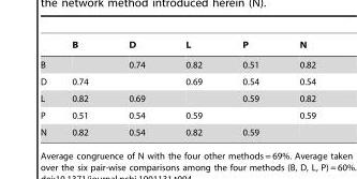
<table><thead><tr><td></td><td>B</td><td>D</td><td>L</td><td>P</td><td>N</td></tr></thead><tbody><tr><td>B</td><td></td><td>0.74</td><td>0.82</td><td>0.51</td><td>0.82</td></tr><tr><td>D</td><td>0.74</td><td></td><td>0.69</td><td>0.54</td><td>0.54</td></tr><tr><td>L</td><td>0.82</td><td>0.69</td><td></td><td>0.59</td><td>0.82</td></tr><tr><td>P</td><td>0.51</td><td>0.54</td><td>0.59</td><td></td><td>0.59</td></tr><tr><td>N</td><td>0.82</td><td>0.54</td><td>0.82</td><td>0.59</td><td></td></tr></tbody></table>